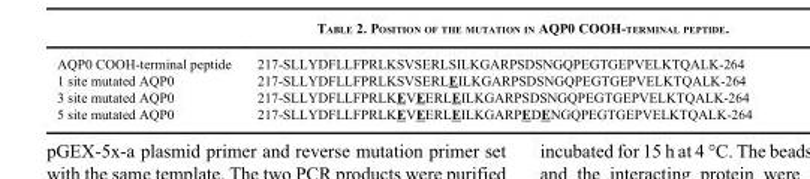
<table><tbody><tr><td>AQP0 COOH-terminal peptide</td><td>217-SLLYDFLLFPRLKSVSERLSILKGARPSDSNGQPEGTGEPVELKTQALK-264</td></tr><tr><td>1 site mutated AQP0</td><td>217-SLLYDFLLFPRLKSVSERLEILKGARPSDSNGQPEGTGEPVELKTQALK-264</td></tr><tr><td>3 site mutated AQP0</td><td>217-SLLYDFLLFPRLKEVEERLEILKGARPSDSNGQPEGTGEPVELKTQALK-264</td></tr><tr><td>5 site mutated AQP0</td><td>217-SLLYDFLLFPRLKEVEERLEILKGARPEDENGQPEGTGEPVELKTQALK-264</td></tr></tbody></table>